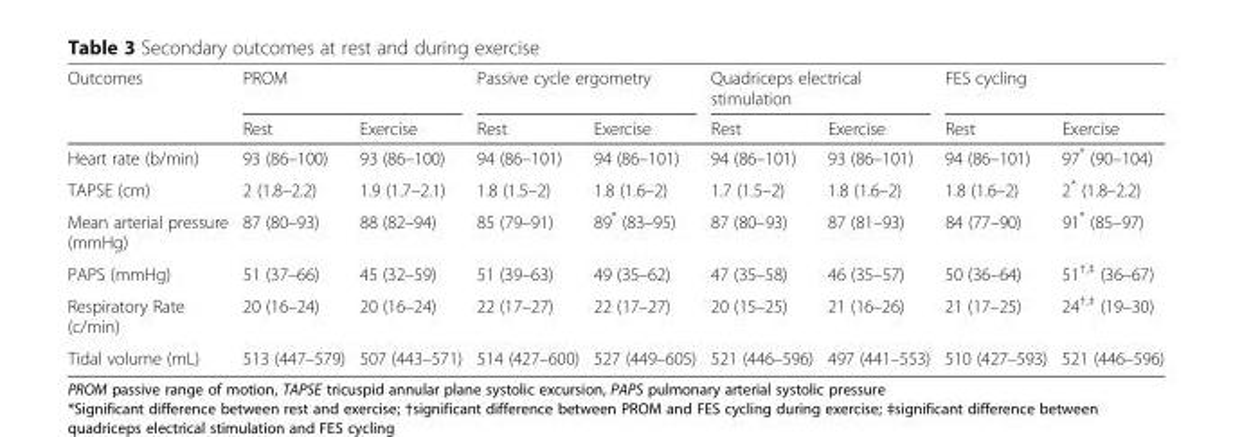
<table><thead><tr><td rowspan="2">Outcomes</td><td colspan="2">PROM</td><td colspan="2">Passive cycle ergometry</td><td colspan="2">Quadriceps electrical stimulation</td><td colspan="2">FES cycling</td></tr><tr><td>Rest</td><td>Exercise</td><td>Rest</td><td>Exercise</td><td>Rest</td><td>Exercise</td><td>Rest</td><td>Exercise</td></tr></thead><tbody><tr><td>Heart rate (b/min)</td><td>93 (86–100)</td><td>93 (86–100)</td><td>94 (86–101)</td><td>94 (86–101)</td><td>94 (86–101)</td><td>93 (86–101)</td><td>94 (86–101)</td><td>97* (90–104)</td></tr><tr><td>TAPSE (cm)</td><td>2 (1.8–2.2)</td><td>1.9 (1.7–2.1)</td><td>1.8 (1.5–2)</td><td>1.8 (1.6–2)</td><td>1.7 (1.5–2)</td><td>1.8 (1.6–2)</td><td>1.8 (1.6–2)</td><td>2* (1.8–2.2)</td></tr><tr><td>Mean arterial pressure (mmHg)</td><td>87 (80–93)</td><td>88 (82–94)</td><td>85 (79–91)</td><td>89* (83–95)</td><td>87 (80–93)</td><td>87 (81–93)</td><td>84 (77–90)</td><td>91* (85–97)</td></tr><tr><td>PAPS (mmHg)</td><td>51 (37–66)</td><td>45 (32–59)</td><td>51 (39–63)</td><td>49 (35–62)</td><td>47 (35–58)</td><td>46 (35–57)</td><td>50 (36–64)</td><td>51<sup>†,‡</sup> (36–67)</td></tr><tr><td>Respiratory Rate (c/min)</td><td>20 (16–24)</td><td>20 (16–24)</td><td>22 (17–27)</td><td>22 (17–27)</td><td>20 (15–25)</td><td>21 (16–26)</td><td>21 (17–25)</td><td>24<sup>†,‡</sup> (19–30)</td></tr><tr><td>Tidal volume (mL)</td><td>513 (447–579)</td><td>507 (443–571)</td><td>514 (427–600)</td><td>527 (449–605)</td><td>521 (446–596)</td><td>497 (441–553)</td><td>510 (427–593)</td><td>521 (446–596)</td></tr></tbody></table>